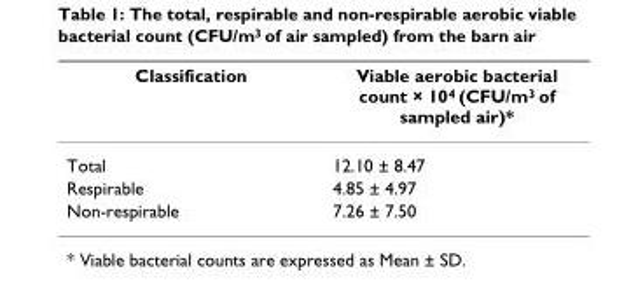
<table><thead><tr><td>Classification</td><td>Viable aerobic bacterial count × 10<sup>4</sup> (CFU/m<sup>3</sup> of sampled air)*</td></tr></thead><tbody><tr><td>Total</td><td>12.10 ± 8.47</td></tr><tr><td>Respirable</td><td>4.85 ± 4.97</td></tr><tr><td>Non-respirable</td><td>7.26 ± 7.50</td></tr></tbody></table>